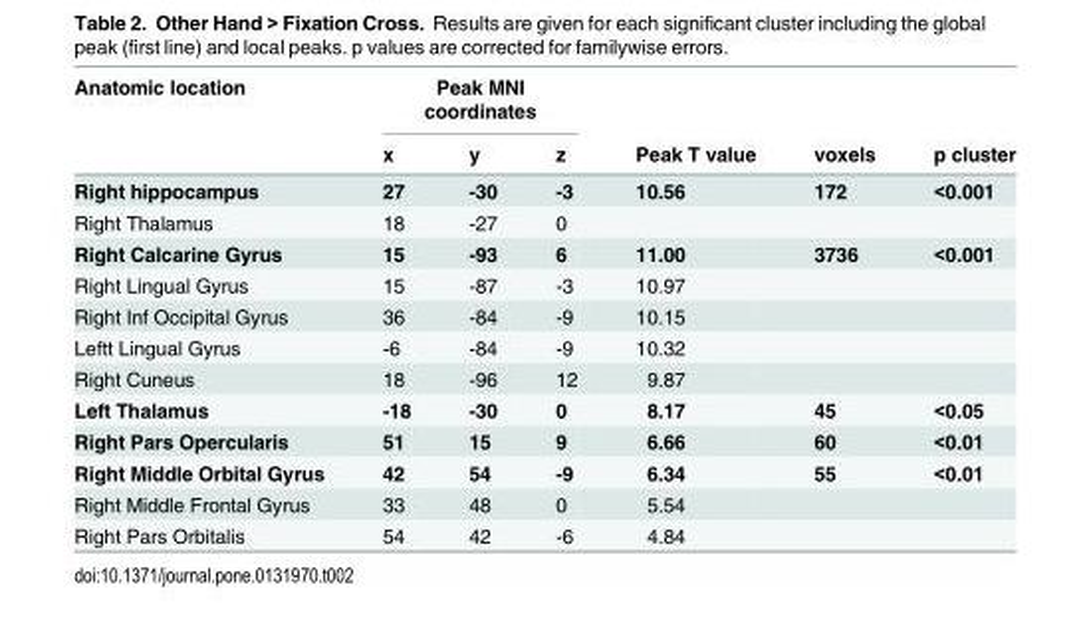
<table><thead><tr><td rowspan="2">Anatomic location</td><td colspan="3">Peak MNI coordinates</td><td rowspan="2">Peak T value</td><td rowspan="2">voxels</td><td rowspan="2">p cluster</td></tr><tr><td>x</td><td>y</td><td>z</td></tr></thead><tbody><tr><td>Right hippocampus</td><td>27</td><td>-30</td><td>-3</td><td>10.56</td><td>172</td><td>&lt;0.001</td></tr><tr><td>Right Thalamus</td><td>18</td><td>-27</td><td>0</td><td></td><td></td><td></td></tr><tr><td>Right Calcarine Gyrus</td><td>15</td><td>-93</td><td>6</td><td>11.00</td><td>3736</td><td>&lt;0.001</td></tr><tr><td>Right Lingual Gyrus</td><td>15</td><td>-87</td><td>-3</td><td>10.97</td><td></td><td></td></tr><tr><td>Right Inf Occipital Gyrus</td><td>36</td><td>-84</td><td>-9</td><td>10.15</td><td></td><td></td></tr><tr><td>Leftt Lingual Gyrus</td><td>-6</td><td>-84</td><td>-9</td><td>10.32</td><td></td><td></td></tr><tr><td>Right Cuneus</td><td>18</td><td>-96</td><td>12</td><td>9.87</td><td></td><td></td></tr><tr><td>Left Thalamus</td><td>-18</td><td>-30</td><td>0</td><td>8.17</td><td>45</td><td>&lt;0.05</td></tr><tr><td>Right Pars Opercularis</td><td>51</td><td>15</td><td>9</td><td>6.66</td><td>60</td><td>&lt;0.01</td></tr><tr><td>Right Middle Orbital Gyrus</td><td>42</td><td>54</td><td>-9</td><td>6.34</td><td>55</td><td>&lt;0.01</td></tr><tr><td>Right Middle Frontal Gyrus</td><td>33</td><td>48</td><td>0</td><td>5.54</td><td></td><td></td></tr><tr><td>Right Pars Orbitalis</td><td>54</td><td>42</td><td>-6</td><td>4.84</td><td></td><td></td></tr></tbody></table>